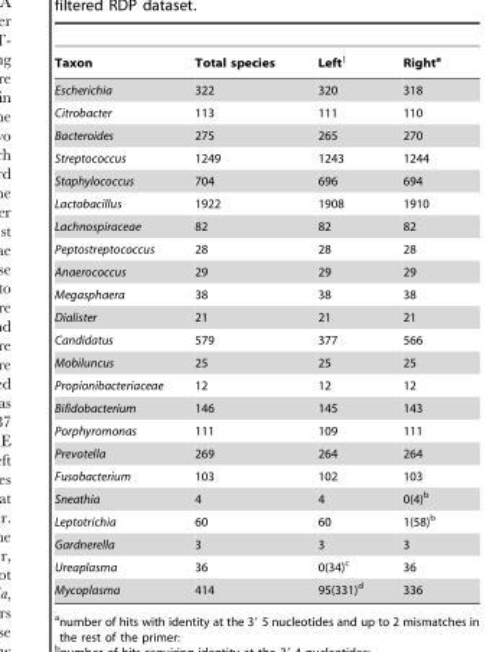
<table><thead><tr><td>Taxon</td><td>Total species</td><td>Left1</td><td>Right<sup>a</sup></td></tr></thead><tbody><tr><td>Escherichia</td><td>322</td><td>320</td><td>318</td></tr><tr><td>Citrobacter</td><td>113</td><td>111</td><td>110</td></tr><tr><td>Bacteroides</td><td>275</td><td>265</td><td>270</td></tr><tr><td>Streptococcus</td><td>1249</td><td>1243</td><td>1244</td></tr><tr><td>Staphylococcus</td><td>704</td><td>696</td><td>694</td></tr><tr><td>Lactobacillus</td><td>1922</td><td>1908</td><td>1910</td></tr><tr><td>Lachnospiraceae</td><td>82</td><td>82</td><td>82</td></tr><tr><td>Peptostreptococcus</td><td>28</td><td>28</td><td>28</td></tr><tr><td>Anaerococcus</td><td>29</td><td>29</td><td>29</td></tr><tr><td>Megasphaera</td><td>38</td><td>38</td><td>38</td></tr><tr><td>Dialister</td><td>21</td><td>21</td><td>21</td></tr><tr><td>Candidatus</td><td>579</td><td>377</td><td>566</td></tr><tr><td>Mobiluncus</td><td>25</td><td>25</td><td>25</td></tr><tr><td>Propionibacteriaceae</td><td>12</td><td>12</td><td>12</td></tr><tr><td>Bifidobacterium</td><td>146</td><td>145</td><td>143</td></tr><tr><td>Porphyromonas</td><td>111</td><td>109</td><td>111</td></tr><tr><td>Prevotella</td><td>269</td><td>264</td><td>264</td></tr><tr><td>Fusobacterium</td><td>103</td><td>102</td><td>103</td></tr><tr><td>Sneathia</td><td>4</td><td>4</td><td>0(4)<sup>b</sup></td></tr><tr><td>Leptotrichia</td><td>60</td><td>60</td><td>1(58)<sup>b</sup></td></tr><tr><td>Gardnerella</td><td>3</td><td>3</td><td>3</td></tr><tr><td>Ureaplasma</td><td>36</td><td>0(34)<sup>c</sup></td><td>36</td></tr><tr><td>Mycoplasma</td><td>414</td><td>95(331)<sup>d</sup></td><td>336</td></tr></tbody></table>